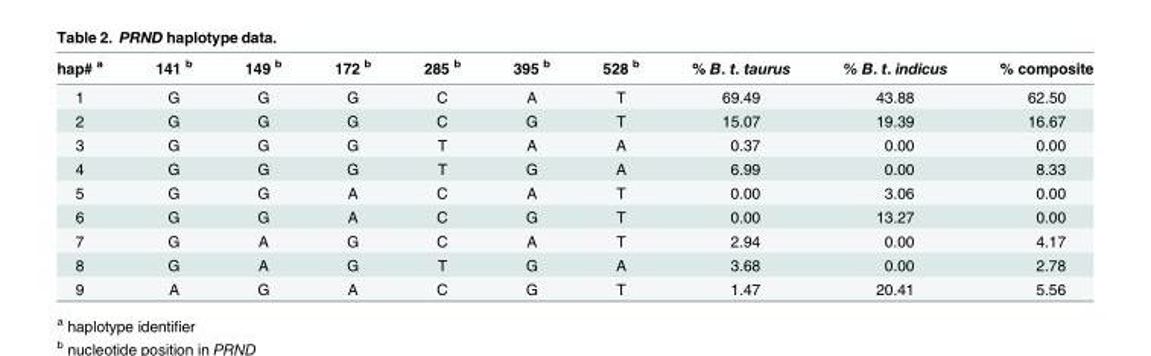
<table><thead><tr><td>hap# <sup>a</sup></td><td>141 <sup>b</sup></td><td>149 <sup>b</sup></td><td>172 <sup>b</sup></td><td>285 <sup>b</sup></td><td>395 <sup>b</sup></td><td>528 <sup>b</sup></td><td>% B. t. taurus</td><td>% B. t. indicus</td><td>% composite</td></tr></thead><tbody><tr><td>1</td><td>G</td><td>G</td><td>G</td><td>C</td><td>A</td><td>T</td><td>69.49</td><td>43.88</td><td>62.50</td></tr><tr><td>2</td><td>G</td><td>G</td><td>G</td><td>C</td><td>G</td><td>T</td><td>15.07</td><td>19.39</td><td>16.67</td></tr><tr><td>3</td><td>G</td><td>G</td><td>G</td><td>T</td><td>A</td><td>A</td><td>0.37</td><td>0.00</td><td>0.00</td></tr><tr><td>4</td><td>G</td><td>G</td><td>G</td><td>T</td><td>G</td><td>A</td><td>6.99</td><td>0.00</td><td>8.33</td></tr><tr><td>5</td><td>G</td><td>G</td><td>A</td><td>C</td><td>A</td><td>T</td><td>0.00</td><td>3.06</td><td>0.00</td></tr><tr><td>6</td><td>G</td><td>G</td><td>A</td><td>C</td><td>G</td><td>T</td><td>0.00</td><td>13.27</td><td>0.00</td></tr><tr><td>7</td><td>G</td><td>A</td><td>G</td><td>C</td><td>A</td><td>T</td><td>2.94</td><td>0.00</td><td>4.17</td></tr><tr><td>8</td><td>G</td><td>A</td><td>G</td><td>T</td><td>G</td><td>A</td><td>3.68</td><td>0.00</td><td>2.78</td></tr><tr><td>9</td><td>A</td><td>G</td><td>A</td><td>C</td><td>G</td><td>T</td><td>1.47</td><td>20.41</td><td>5.56</td></tr></tbody></table>